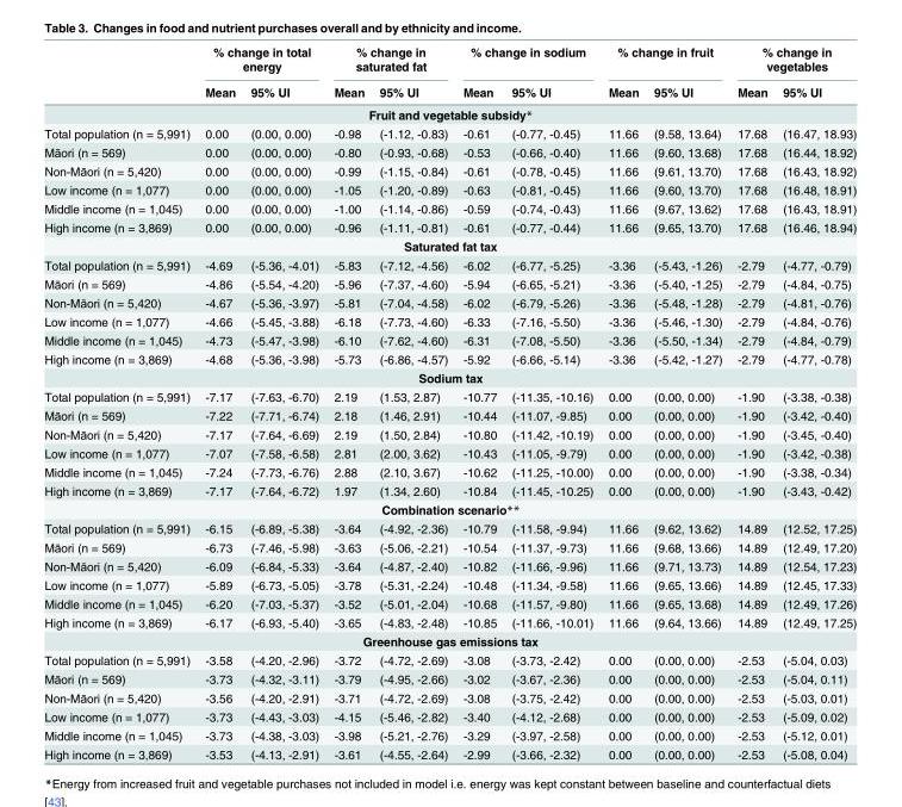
<table><thead><tr><td rowspan="2"></td><td colspan="2">% change in total energy</td><td colspan="2">% change in saturated fat</td><td colspan="2">% change in sodium</td><td colspan="2">% change in fruit</td><td colspan="2">% change in vegetables</td></tr><tr><td>Mean</td><td>95% UI</td><td>Mean</td><td>95% UI</td><td>Mean</td><td>95% UI</td><td>Mean</td><td>95% UI</td><td>Mean</td><td>95% UI</td></tr></thead><tbody><tr><td colspan="11">Fruit and vegetable subsidy*</td></tr><tr><td>Total population (n = 5,991)</td><td>0.00</td><td>(0.00, 0.00)</td><td>-0.98</td><td>(-1.12, -0.83)</td><td>-0.61</td><td>(-0.77, -0.45)</td><td>11.66</td><td>(9.58, 13.64)</td><td>17.68</td><td>(16.47, 18.93)</td></tr><tr><td>Māori (n = 569)</td><td>0.00</td><td>(0.00, 0.00)</td><td>-0.80</td><td>(-0.93, -0.68)</td><td>-0.53</td><td>(-0.66, -0.40)</td><td>11.66</td><td>(9.60, 13.68)</td><td>17.68</td><td>(16.44, 18.92)</td></tr><tr><td>Non-Māori (n = 5,420)</td><td>0.00</td><td>(0.00, 0.00)</td><td>-0.99</td><td>(-1.15, -0.84)</td><td>-0.61</td><td>(-0.78, -0.45)</td><td>11.66</td><td>(9.61, 13.70)</td><td>17.68</td><td>(16.43, 18.92)</td></tr><tr><td>Low income (n = 1,077)</td><td>0.00</td><td>(0.00, 0.00)</td><td>-1.05</td><td>(-1.20, -0.89)</td><td>-0.63</td><td>(-0.81, -0.45)</td><td>11.66</td><td>(9.60, 13.70)</td><td>17.68</td><td>(16.48, 18.91)</td></tr><tr><td>Middle income (n = 1,045)</td><td>0.00</td><td>(0.00, 0.00)</td><td>-1.00</td><td>(-1.14, -0.86)</td><td>-0.59</td><td>(-0.74, -0.43)</td><td>11.66</td><td>(9.67, 13.62)</td><td>17.68</td><td>(16.43, 18.91)</td></tr><tr><td>High income (n = 3,869)</td><td>0.00</td><td>(0.00, 0.00)</td><td>-0.96</td><td>(-1.11, -0.81)</td><td>-0.61</td><td>(-0.77, -0.44)</td><td>11.66</td><td>(9.65, 13.70)</td><td>17.68</td><td>(16.46, 18.94)</td></tr><tr><td colspan="11">Saturated fat tax</td></tr><tr><td>Total population (n = 5,991)</td><td>-4.69</td><td>(-5.36, -4.01)</td><td>-5.83</td><td>(-7.12, -4.56)</td><td>-6.02</td><td>(-6.77, -5.25)</td><td>-3.36</td><td>(-5.43, -1.26)</td><td>-2.79</td><td>(-4.77, -0.79)</td></tr><tr><td>Māori (n = 569)</td><td>-4.86</td><td>(-5.54, -4.20)</td><td>-5.96</td><td>(-7.37, -4.60)</td><td>-5.94</td><td>(-6.65, -5.21)</td><td>-3.36</td><td>(-5.40, -1.25)</td><td>-2.79</td><td>(-4.84, -0.75)</td></tr><tr><td>Non-Māori (n = 5,420)</td><td>-4.67</td><td>(-5.36, -3.97)</td><td>-5.81</td><td>(-7.04, -4.58)</td><td>-6.02</td><td>(-6.79, -5.26)</td><td>-3.36</td><td>(-5.48, -1.28)</td><td>-2.79</td><td>(-4.81, -0.76)</td></tr><tr><td>Low income (n = 1,077)</td><td>-4.66</td><td>(-5.45, -3.88)</td><td>-6.18</td><td>(-7.73, -4.60)</td><td>-6.33</td><td>(-7.16, -5.50)</td><td>-3.36</td><td>(-5.46, -1.30)</td><td>-2.79</td><td>(-4.84, -0.76)</td></tr><tr><td>Middle income (n = 1,045)</td><td>-4.73</td><td>(-5.47, -3.98)</td><td>-6.10</td><td>(-7.62, -4.60)</td><td>-6.31</td><td>(-7.08, -5.50)</td><td>-3.36</td><td>(-5.50, -1.34)</td><td>-2.79</td><td>(-4.84, -0.79)</td></tr><tr><td>High income (n = 3,869)</td><td>-4.68</td><td>(-5.36, -3.98)</td><td>-5.73</td><td>(-6.86, -4.57)</td><td>-5.92</td><td>(-6.66, -5.14)</td><td>-3.36</td><td>(-5.42, -1.27)</td><td>-2.79</td><td>(-4.77, -0.78)</td></tr><tr><td colspan="11">Sodium tax</td></tr><tr><td>Total population (n = 5,991)</td><td>-7.17</td><td>(-7.63, -6.70)</td><td>2.19</td><td>(1.53, 2.87)</td><td>-10.77</td><td>(-11.35, -10.16)</td><td>0.00</td><td>(0.00, 0.00)</td><td>-1.90</td><td>(-3.38, -0.38)</td></tr><tr><td>Māori (n = 569)</td><td>-7.22</td><td>(-7.71, -6.74)</td><td>2.18</td><td>(1.46, 2.91)</td><td>-10.44</td><td>(-11.07, -9.85)</td><td>0.00</td><td>(0.00, 0.00)</td><td>-1.90</td><td>(-3.42, -0.40)</td></tr><tr><td>Non-Māori (n = 5,420)</td><td>-7.17</td><td>(-7.64, -6.69)</td><td>2.19</td><td>(1.50, 2.84)</td><td>-10.80</td><td>(-11.42, -10.19)</td><td>0.00</td><td>(0.00, 0.00)</td><td>-1.90</td><td>(-3.45, -0.40)</td></tr><tr><td>Low income (n = 1,077)</td><td>-7.07</td><td>(-7.58, -6.58)</td><td>2.81</td><td>(2.00, 3.62)</td><td>-10.43</td><td>(-11.05, -9.79)</td><td>0.00</td><td>(0.00, 0.00)</td><td>-1.90</td><td>(-3.42, -0.38)</td></tr><tr><td>Middle income (n = 1,045)</td><td>-7.24</td><td>(-7.73, -6.76)</td><td>2.88</td><td>(2.10, 3.67)</td><td>-10.62</td><td>(-11.25, -10.00)</td><td>0.00</td><td>(0.00, 0.00)</td><td>-1.90</td><td>(-3.38, -0.34)</td></tr><tr><td>High income (n = 3,869)</td><td>-7.17</td><td>(-7.64, -6.72)</td><td>1.97</td><td>(1.34, 2.60)</td><td>-10.84</td><td>(-11.45, -10.25)</td><td>0.00</td><td>(0.00, 0.00)</td><td>-1.90</td><td>(-3.43, -0.42)</td></tr><tr><td colspan="11">Combination scenario**</td></tr><tr><td>Total population (n = 5,991)</td><td>-6.15</td><td>(-6.89, -5.38)</td><td>-3.64</td><td>(-4.92, -2.36)</td><td>-10.79</td><td>(-11.58, -9.94)</td><td>11.66</td><td>(9.62, 13.62)</td><td>14.89</td><td>(12.52, 17.25)</td></tr><tr><td>Māori (n = 569)</td><td>-6.73</td><td>(-7.46, -5.98)</td><td>-3.63</td><td>(-5.06, -2.21)</td><td>-10.54</td><td>(-11.37, -9.73)</td><td>11.66</td><td>(9.68, 13.66)</td><td>14.89</td><td>(12.49, 17.20)</td></tr><tr><td>Non-Māori (n = 5,420)</td><td>-6.09</td><td>(-6.84, -5.33)</td><td>-3.64</td><td>(-4.87, -2.40)</td><td>-10.82</td><td>(-11.66, -9.96)</td><td>11.66</td><td>(9.71, 13.73)</td><td>14.89</td><td>(12.54, 17.23)</td></tr><tr><td>Low income (n = 1,077)</td><td>-5.89</td><td>(-6.73, -5.05)</td><td>-3.78</td><td>(-5.31, -2.24)</td><td>-10.48</td><td>(-11.34, -9.58)</td><td>11.66</td><td>(9.65, 13.66)</td><td>14.89</td><td>(12.45, 17.33)</td></tr><tr><td>Middle income (n = 1,045)</td><td>-6.20</td><td>(-7.03, -5.37)</td><td>-3.52</td><td>(-5.01, -2.04)</td><td>-10.68</td><td>(-11.57, -9.80)</td><td>11.66</td><td>(9.65, 13.68)</td><td>14.89</td><td>(12.49, 17.26)</td></tr><tr><td>High income (n = 3,869)</td><td>-6.17</td><td>(-6.93, -5.40)</td><td>-3.65</td><td>(-4.83, -2.48)</td><td>-10.85</td><td>(-11.66, -10.01)</td><td>11.66</td><td>(9.64, 13.66)</td><td>14.89</td><td>(12.49, 17.25)</td></tr><tr><td colspan="11">Greenhouse gas emissions tax</td></tr><tr><td>Total population (n = 5,991)</td><td>-3.58</td><td>(-4.20, -2.96)</td><td>-3.72</td><td>(-4.72, -2.69)</td><td>-3.08</td><td>(-3.73, -2.42)</td><td>0.00</td><td>(0.00, 0.00)</td><td>-2.53</td><td>(-5.04, 0.03)</td></tr><tr><td>Māori (n = 569)</td><td>-3.73</td><td>(-4.32, -3.11)</td><td>-3.79</td><td>(-4.95, -2.66)</td><td>-3.02</td><td>(-3.67, -2.36)</td><td>0.00</td><td>(0.00, 0.00)</td><td>-2.53</td><td>(-5.04, 0.11)</td></tr><tr><td>Non-Māori (n = 5,420)</td><td>-3.56</td><td>(-4.20, -2.91)</td><td>-3.71</td><td>(-4.72, -2.69)</td><td>-3.08</td><td>(-3.75, -2.42)</td><td>0.00</td><td>(0.00, 0.00)</td><td>-2.53</td><td>(-5.03, 0.01)</td></tr><tr><td>Low income (n = 1,077)</td><td>-3.73</td><td>(-4.43, -3.03)</td><td>-4.15</td><td>(-5.46, -2.82)</td><td>-3.40</td><td>(-4.12, -2.68)</td><td>0.00</td><td>(0.00, 0.00)</td><td>-2.53</td><td>(-5.09, 0.02)</td></tr><tr><td>Middle income (n = 1,045)</td><td>-3.73</td><td>(-4.38, -3.03)</td><td>-3.98</td><td>(-5.21, -2.76)</td><td>-3.29</td><td>(-3.97, -2.58)</td><td>0.00</td><td>(0.00, 0.00)</td><td>-2.53</td><td>(-5.12, 0.01)</td></tr><tr><td>High income (n = 3,869)</td><td>-3.53</td><td>(-4.13, -2.91)</td><td>-3.61</td><td>(-4.55, -2.64)</td><td>-2.99</td><td>(-3.66, -2.32)</td><td>0.00</td><td>(0.00, 0.00)</td><td>-2.53</td><td>(-5.08, 0.04)</td></tr></tbody></table>